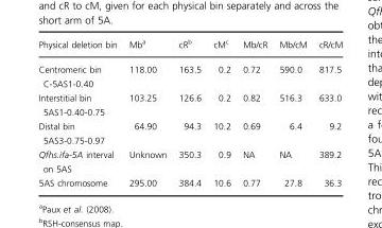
<table><thead><tr><td>Physical deletion bin</td><td>Mb<sup>a</sup></td><td>cR<sup>b</sup></td><td>cM<sup>c</sup></td><td>Mb/cR</td><td>Mb/cM</td><td>cR/cM</td></tr></thead><tbody><tr><td>Centromeric bin C-5AS1-0.40</td><td>118.00</td><td>163.5</td><td>0.2</td><td>0.72</td><td>590.0</td><td>817.5</td></tr><tr><td>Interstitial bin 5AS1-0.40-0.75</td><td>103.25</td><td>126.6</td><td>0.2</td><td>0.82</td><td>516.3</td><td>633.0</td></tr><tr><td>Distal bin 5AS3-0.75-0.97</td><td>64.90</td><td>94.3</td><td>10.2</td><td>0.69</td><td>6.4</td><td>9.2</td></tr><tr><td>Qfhs.ifa-5A interval on 5AS</td><td>Unknown</td><td>350.3</td><td>0.9</td><td>NA</td><td>NA</td><td>389.2</td></tr><tr><td>5AS chromosome</td><td>295.00</td><td>384.4</td><td>10.6</td><td>0.77</td><td>27.8</td><td>36.3</td></tr></tbody></table>